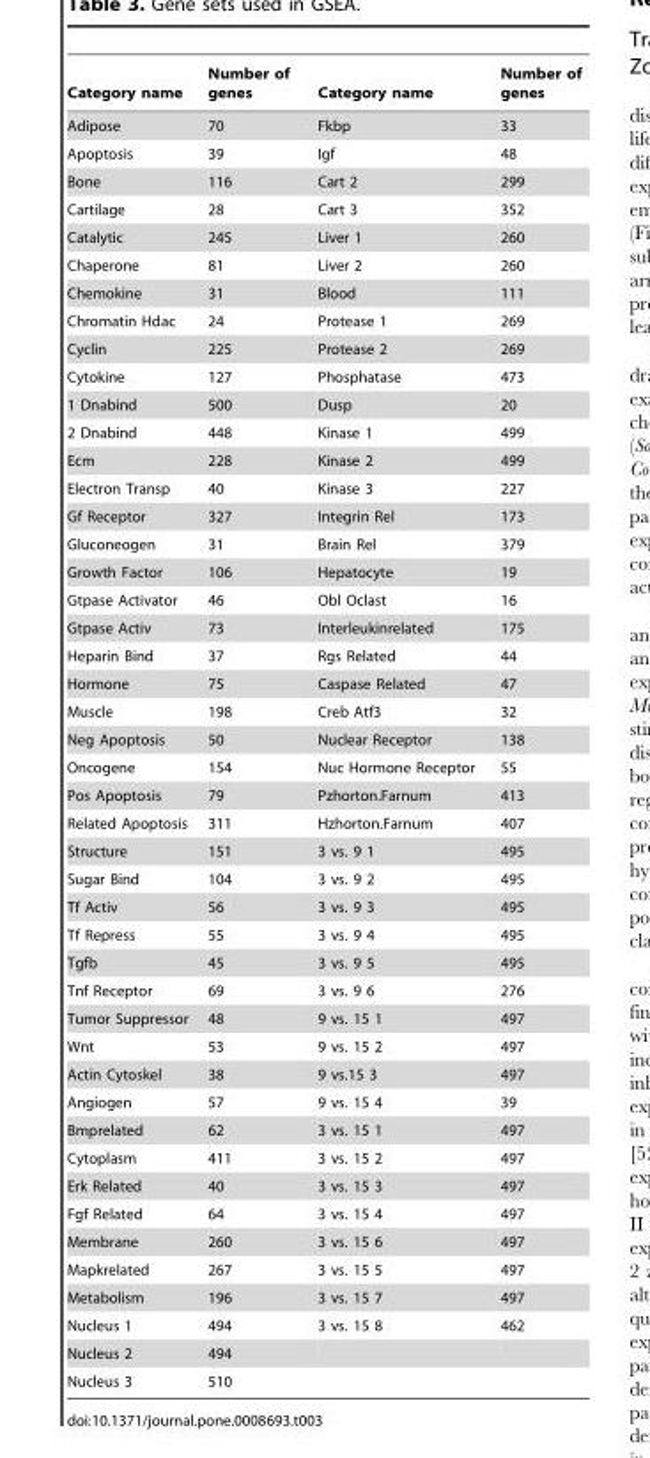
<table><thead><tr><td>Category name</td><td>Number of genes</td><td>Category name</td><td>Number of genes</td></tr></thead><tbody><tr><td>Adipose</td><td>70</td><td>Fkbp</td><td>33</td></tr><tr><td>Apoptosis</td><td>39</td><td>Igf</td><td>48</td></tr><tr><td>Bone</td><td>116</td><td>Cart 2</td><td>299</td></tr><tr><td>Cartilage</td><td>28</td><td>Cart 3</td><td>352</td></tr><tr><td>Catalytic</td><td>245</td><td>Liver 1</td><td>260</td></tr><tr><td>Chaperone</td><td>81</td><td>Liver 2</td><td>260</td></tr><tr><td>Chemokine</td><td>31</td><td>Blood</td><td>111</td></tr><tr><td>Chromatin Hdac</td><td>24</td><td>Protease 1</td><td>269</td></tr><tr><td>Cyclin</td><td>225</td><td>Protease 2</td><td>269</td></tr><tr><td>Cytokine</td><td>127</td><td>Phosphatase</td><td>473</td></tr><tr><td>1 Dnabind</td><td>500</td><td>Dusp</td><td>20</td></tr><tr><td>2 Dnabind</td><td>448</td><td>Kinase 1</td><td>499</td></tr><tr><td>Ecm</td><td>228</td><td>Kinase 2</td><td>499</td></tr><tr><td>Electron Transp</td><td>40</td><td>Kinase 3</td><td>227</td></tr><tr><td>Gf Receptor</td><td>327</td><td>Integrin Rel</td><td>173</td></tr><tr><td>Gluconeogen</td><td>31</td><td>Brain Rel</td><td>379</td></tr><tr><td>Growth Factor</td><td>106</td><td>Hepatocyte</td><td>19</td></tr><tr><td>Gtpase Activator</td><td>46</td><td>Obl Oclast</td><td>16</td></tr><tr><td>Gtpase Activ</td><td>73</td><td>Interleukinrelated</td><td>175</td></tr><tr><td>Heparin Bind</td><td>37</td><td>Rgs Related</td><td>44</td></tr><tr><td>Hormone</td><td>75</td><td>Caspase Related</td><td>47</td></tr><tr><td>Muscle</td><td>198</td><td>Creb Atf3</td><td>32</td></tr><tr><td>Neg Apoptosis</td><td>50</td><td>Nuclear Receptor</td><td>138</td></tr><tr><td>Oncogene</td><td>154</td><td>Nuc Hormone Receptor</td><td>55</td></tr><tr><td>Pos Apoptosis</td><td>79</td><td>Pzhorton.Farnum</td><td>413</td></tr><tr><td>Related Apoptosis</td><td>311</td><td>Hzhorton.Farnum</td><td>407</td></tr><tr><td>Structure</td><td>151</td><td>3 vs. 9 1</td><td>495</td></tr><tr><td>Sugar Bind</td><td>104</td><td>3 vs. 9 2</td><td>495</td></tr><tr><td>Tf Activ</td><td>56</td><td>3 vs. 9 3</td><td>495</td></tr><tr><td>Tf Repress</td><td>55</td><td>3 vs. 9 4</td><td>495</td></tr><tr><td>Tgfb</td><td>45</td><td>3 vs. 9 5</td><td>495</td></tr><tr><td>Tnf Receptor</td><td>69</td><td>3 vs. 9 6</td><td>276</td></tr><tr><td>Tumor Suppressor</td><td>48</td><td>9 vs. 15 1</td><td>497</td></tr><tr><td>Wnt</td><td>53</td><td>9 vs. 15 2</td><td>497</td></tr><tr><td>Actin Cytoskel</td><td>38</td><td>9 vs.15 3</td><td>497</td></tr><tr><td>Angiogen</td><td>57</td><td>9 vs. 15 4</td><td>39</td></tr><tr><td>Bmprelated</td><td>62</td><td>3 vs. 15 1</td><td>497</td></tr><tr><td>Cytoplasm</td><td>411</td><td>3 vs. 15 2</td><td>497</td></tr><tr><td>Erk Related</td><td>40</td><td>3 vs. 15 3</td><td>497</td></tr><tr><td>Fgf Related</td><td>64</td><td>3 vs. 15 4</td><td>497</td></tr><tr><td>Membrane</td><td>260</td><td>3 vs. 15 6</td><td>497</td></tr><tr><td>Mapkrelated</td><td>267</td><td>3 vs. 15 5</td><td>497</td></tr><tr><td>Metabolism</td><td>196</td><td>3 vs. 15 7</td><td>497</td></tr><tr><td>Nucleus 1</td><td>494</td><td>3 vs. 15 8</td><td>462</td></tr><tr><td>Nucleus 2</td><td>494</td><td></td><td></td></tr><tr><td>Nucleus 3</td><td>510</td><td></td><td></td></tr></tbody></table>